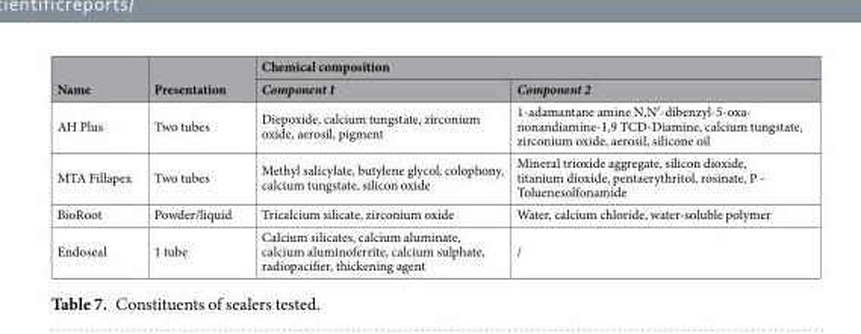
<table><thead><tr><td rowspan="2">Name</td><td rowspan="2">Presentation</td><td colspan="2">Chemical composition</td></tr><tr><td>Component 1</td><td>Component 2</td></tr></thead><tbody><tr><td>AH Plus</td><td>Two tubes</td><td>Diepoxide, calcium tungstate, zirconium oxide, aerosil, pigment</td><td>1-adamantane amine N,N′-dibenzyl-5-oxa- nonandiamine-1,9 TCD-Diamine, calcium tungstate, zirconium oxide, aerosil, silicone oil</td></tr><tr><td>MTA Fillapex</td><td>Two tubes</td><td>Methyl salicylate, butylene glycol, colophony, calcium tungstate, silicon oxide</td><td>Mineral trioxide aggregate, silicon dioxide, titanium dioxide, pentaerythritol, rosinate, P - Toluenesolfonamide</td></tr><tr><td>BioRoot</td><td>Powder/liquid</td><td>Tricalcium silicate, zirconium oxide</td><td>Water, calcium chloride, water-soluble polymer</td></tr><tr><td>Endoseal</td><td>1 tube</td><td>Calcium silicates, calcium aluminate, calcium aluminoferrite, calcium sulphate, radiopacifier, thickening agent</td><td>/</td></tr></tbody></table>